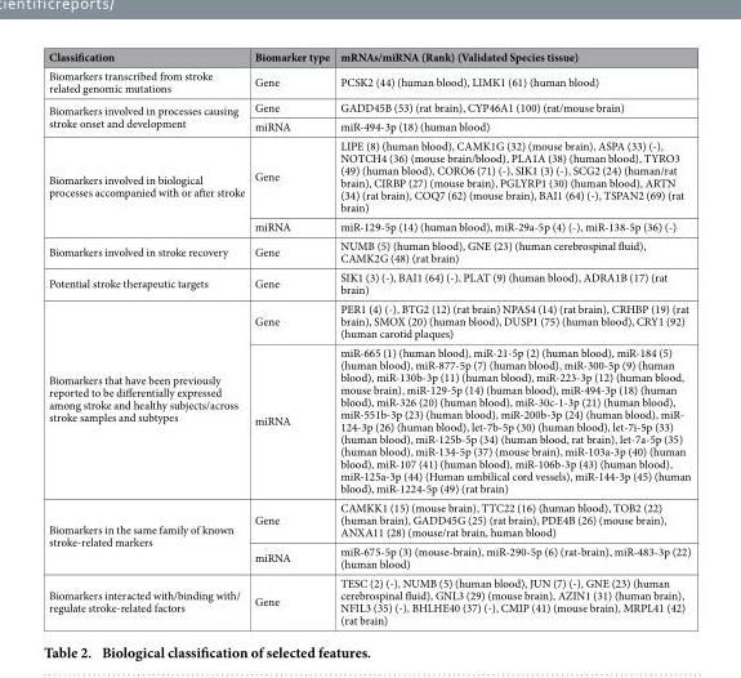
<table><thead><tr><td>Classification</td><td>Biomarker type</td><td>mRNAs/miRNA (Rank) (Validated Species tissue)</td></tr></thead><tbody><tr><td>Biomarkers transcribed from stroke related genomic mutations</td><td>Gene</td><td>PCSK2 (44) (human blood), LIMK1 (61) (human blood)</td></tr><tr><td rowspan="2">Biomarkers involved in processes causing stroke onset and development</td><td>Gene</td><td>GADD45B (53) (rat brain), CYP46A1 (100) (rat/mouse brain)</td></tr><tr><td>miRNA</td><td>miR-494-3p (18) (human blood)</td></tr><tr><td rowspan="2">Biomarkers involved in biological processes accompanied with or after stroke</td><td>Gene</td><td>LIPE (8) (human blood), CAMK1G (32) (mouse brain), ASPA (33) (-), NOTCH4 (36) (mouse brain/blood), PLA1A (38) (human blood), TYRO3 (49) (human blood), CORO6 (71) (-), SIK1 (3) (-), SCG2 (24) (human/rat brain), CIRBP (27) (mouse brain), PGLYRP1 (30) (human blood), ARTN (34) (rat brain), COQ7 (62) (mouse brain), BAI1 (64) (-), TSPAN2 (69) (rat brain)</td></tr><tr><td>miRNA</td><td>miR-129-5p (14) (human blood), miR-29a-5p (4) (-), miR-138-5p (36) (-)</td></tr><tr><td>Biomarkers involved in stroke recovery</td><td>Gene</td><td>NUMB (5) (human blood), GNE (23) (human cerebrospinal fluid), CAMK2G (48) (rat brain)</td></tr><tr><td>Potential stroke therapeutic targets</td><td>Gene</td><td>SIK1 (3) (-), BAI1 (64) (-), PLAT (9) (human blood), ADRA1B (17) (rat brain)</td></tr><tr><td rowspan="2">Biomarkers that have been previously reported to be differentially expressed among stroke and healthy subjects/across stroke samples and subtypes</td><td>Gene</td><td>PER1 (4) (-), BTG2 (12) (rat brain) NPAS4 (14) (rat brain), CRHBP (19) (rat brain), SMOX (20) (human blood), DUSP1 (75) (human blood), CRY1 (92) (human carotid plaques)</td></tr><tr><td>miRNA</td><td>miR-665 (1) (human blood), miR-21-5p (2) (human blood), miR-184 (5) (human blood), miR-877-5p (7) (human blood), miR-300-5p (9) (human blood), miR-130b-3p (11) (human blood), miR-223-3p (12) (human blood, mouse brain), miR-129-5p (14) (human blood), miR-494-3p (18) (human blood), miR-326 (20) (human blood), miR-30c-1-3p (21) (human blood), miR-551b-3p (23) (human blood), miR-200b-3p (24) (human blood), miR- 124-3p (26) (human blood), let-7b-5p (30) (human blood), let-7i-5p (33) (human blood), miR-125b-5p (34) (human blood, rat brain), let-7a-5p (35) (human blood), miR-134-5p (37) (mouse brain), miR-103a-3p (40) (human blood), miR-107 (41) (human blood), miR-106b-3p (43) (human blood), miR-125a-3p (44) (Human umbilical cord vessels), miR-144-3p (45) (human blood), miR-1224-5p (49) (rat brain)</td></tr><tr><td rowspan="2">Biomarkers in the same family of known stroke-related markers</td><td>Gene</td><td>CAMKK1 (15) (mouse brain), TTC22 (16) (human blood), TOB2 (22) (human brain), GADD45G (25) (rat brain), PDE4B (26) (mouse brain), ANXA11 (28) (mouse/rat brain, human blood)</td></tr><tr><td>miRNA</td><td>miR-675-5p (3) (mouse-brain), miR-290-5p (6) (rat-brain), miR-483-3p (22) (human blood)</td></tr><tr><td>Biomarkers interacted with/binding with/ regulate stroke-related factors</td><td>Gene</td><td>TESC (2) (-), NUMB (5) (human blood), JUN (7) (-), GNE (23) (human cerebrospinal fluid), GNL3 (29) (mouse brain), AZIN1 (31) (human brain), NFIL3 (35) (-), BHLHE40 (37) (-), CMIP (41) (mouse brain), MRPL41 (42) (rat brain)</td></tr></tbody></table>